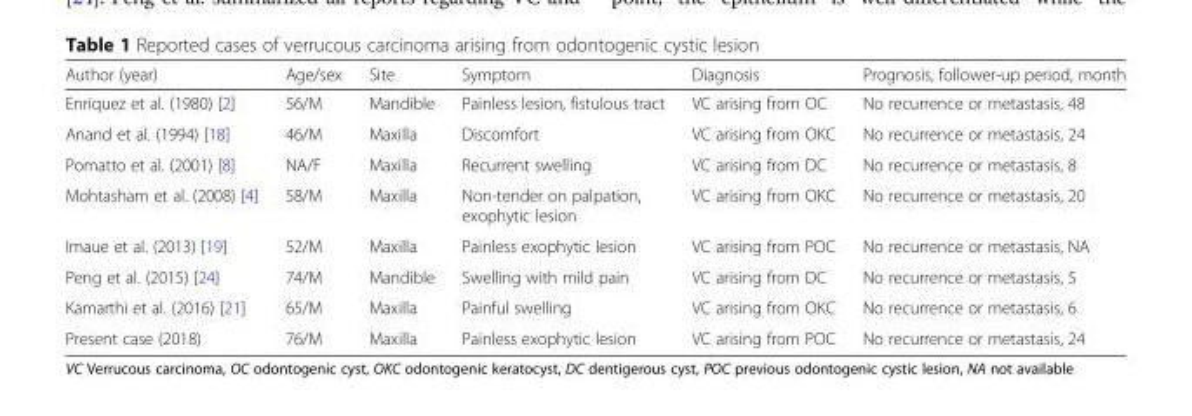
<table><thead><tr><td>Author (year)</td><td>Age/sex</td><td>Site</td><td>Symptom</td><td>Diagnosis</td><td>Prognosis, follower-up period, month</td></tr></thead><tbody><tr><td>Enriquez et al. (1980) [2]</td><td>56/M</td><td>Mandible</td><td>Painless lesion, fistulous tract</td><td>VC arising from OC</td><td>No recurrence or metastasis, 48</td></tr><tr><td>Anand et al. (1994) [18]</td><td>46/M</td><td>Maxilla</td><td>Discomfort</td><td>VC arising from OKC</td><td>No recurrence or metastasis, 24</td></tr><tr><td>Pomatto et al. (2001) [8]</td><td>NA/F</td><td>Maxilla</td><td>Recurrent swelling</td><td>VC arising from DC</td><td>No recurrence or metastasis, 8</td></tr><tr><td>Mohtasham et al. (2008) [4]</td><td>58/M</td><td>Maxilla</td><td>Non-tender on palpation, exophytic lesion</td><td>VC arising from OKC</td><td>No recurrence or metastasis, 20</td></tr><tr><td>Imaue et al. (2013) [19]</td><td>52/M</td><td>Maxilla</td><td>Painless exophytic lesion</td><td>VC arising from POC</td><td>No recurrence or metastasis, NA</td></tr><tr><td>Peng et al. (2015) [24]</td><td>74/M</td><td>Mandible</td><td>Swelling with mild pain</td><td>VC arising from DC</td><td>No recurrence or metastasis, 5</td></tr><tr><td>Kamarthi et al. (2016) [21]</td><td>65/M</td><td>Maxilla</td><td>Painful swelling</td><td>VC arising from OKC</td><td>No recurrence or metastasis, 6</td></tr><tr><td>Present case (2018)</td><td>76/M</td><td>Maxilla</td><td>Painless exophytic lesion</td><td>VC arising from POC</td><td>No recurrence or metastasis, 24</td></tr></tbody></table>